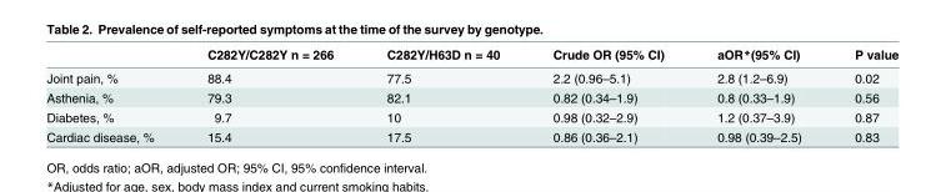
<table><thead><tr><td></td><td>C282Y/C282Y n = 266</td><td>C282Y/H63D n = 40</td><td>Crude OR (95% CI)</td><td>aOR*(95% CI)</td><td>P value</td></tr></thead><tbody><tr><td>Joint pain, %</td><td>88.4</td><td>77.5</td><td>2.2 (0.96–5.1)</td><td>2.8 (1.2–6.9)</td><td>0.02</td></tr><tr><td>Asthenia, %</td><td>79.3</td><td>82.1</td><td>0.82 (0.34–1.9)</td><td>0.8 (0.33–1.9)</td><td>0.56</td></tr><tr><td>Diabetes, %</td><td>9.7</td><td>10</td><td>0.98 (0.32–2.9)</td><td>1.2 (0.37–3.9)</td><td>0.87</td></tr><tr><td>Cardiac disease, %</td><td>15.4</td><td>17.5</td><td>0.86 (0.36–2.1)</td><td>0.98 (0.39–2.5)</td><td>0.83</td></tr></tbody></table>